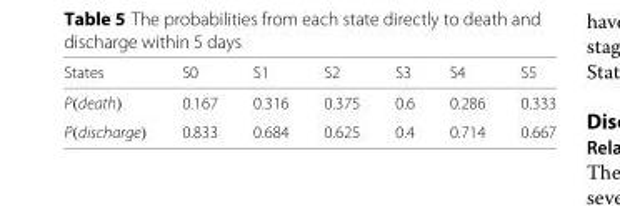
<table><thead><tr><td>States</td><td>S0</td><td>S1</td><td>S2</td><td>S3</td><td>S4</td><td>S5</td></tr></thead><tbody><tr><td>P(death)</td><td>0.167</td><td>0.316</td><td>0.375</td><td>0.6</td><td>0.286</td><td>0.333</td></tr><tr><td>P(discharge)</td><td>0.833</td><td>0.684</td><td>0.625</td><td>0.4</td><td>0.714</td><td>0.667</td></tr></tbody></table>